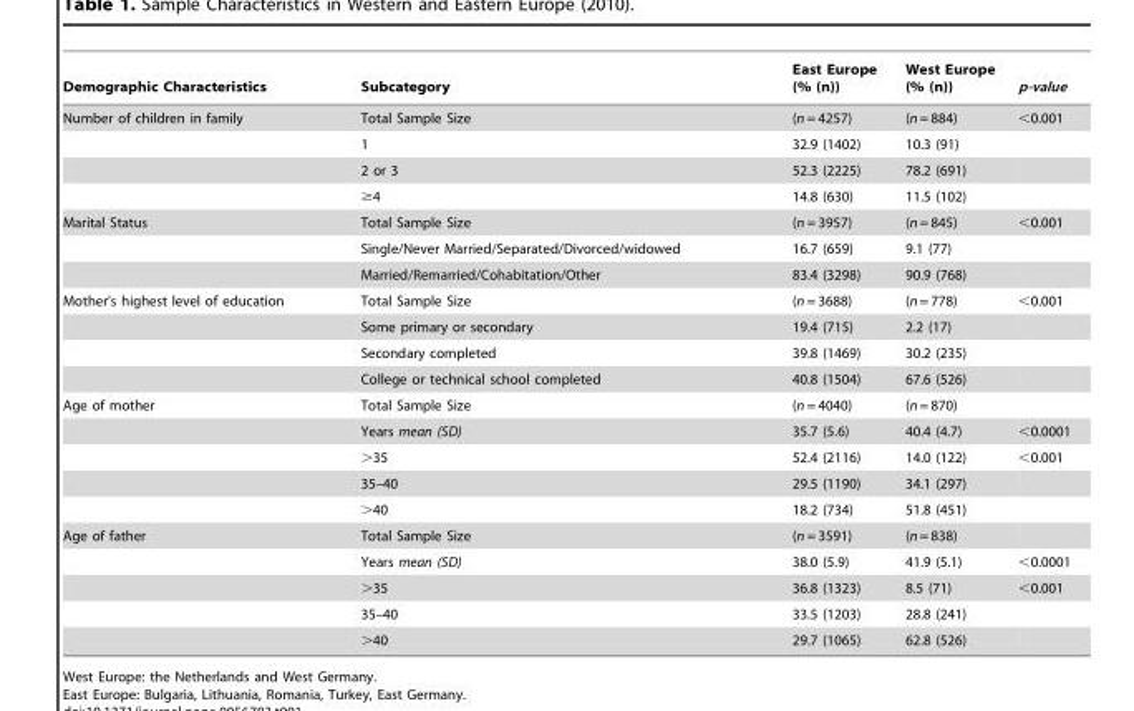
<table><thead><tr><td>Demographic Characteristics</td><td>Subcategory</td><td>East Europe (% (n))</td><td>West Europe (% (n))</td><td>p-value</td></tr></thead><tbody><tr><td rowspan="4">Number of children in family</td><td>Total Sample Size</td><td>(n = 4257)</td><td>(n = 884)</td><td>&lt;0.001</td></tr><tr><td>1</td><td>32.9 (1402)</td><td>10.3 (91)</td><td></td></tr><tr><td>2 or 3</td><td>52.3 (2225)</td><td>78.2 (691)</td><td></td></tr><tr><td>≥4</td><td>14.8 (630)</td><td>11.5 (102)</td><td></td></tr><tr><td rowspan="3">Marital Status</td><td>Total Sample Size</td><td>(n = 3957)</td><td>(n = 845)</td><td>&lt;0.001</td></tr><tr><td>Single/Never Married/Separated/Divorced/widowed</td><td>16.7 (659)</td><td>9.1 (77)</td><td></td></tr><tr><td>Married/Remarried/Cohabitation/Other</td><td>83.4 (3298)</td><td>90.9 (768)</td><td></td></tr><tr><td rowspan="4">Mother’s highest level of education</td><td>Total Sample Size</td><td>(n = 3688)</td><td>(n = 778)</td><td>&lt;0.001</td></tr><tr><td>Some primary or secondary</td><td>19.4 (715)</td><td>2.2 (17)</td><td></td></tr><tr><td>Secondary completed</td><td>39.8 (1469)</td><td>30.2 (235)</td><td></td></tr><tr><td>College or technical school completed</td><td>40.8 (1504)</td><td>67.6 (526)</td><td></td></tr><tr><td rowspan="5">Age of mother</td><td>Total Sample Size</td><td>(n = 4040)</td><td>(n = 870)</td><td></td></tr><tr><td>Years mean (SD)</td><td>35.7 (5.6)</td><td>40.4 (4.7)</td><td>&lt;0.0001</td></tr><tr><td>&gt;35</td><td>52.4 (2116)</td><td>14.0 (122)</td><td>&lt;0.001</td></tr><tr><td>35–40</td><td>29.5 (1190)</td><td>34.1 (297)</td><td></td></tr><tr><td>&gt;40</td><td>18.2 (734)</td><td>51.8 (451)</td><td></td></tr><tr><td rowspan="5">Age of father</td><td>Total Sample Size</td><td>(n = 3591)</td><td>(n = 838)</td><td></td></tr><tr><td>Years mean (SD)</td><td>38.0 (5.9)</td><td>41.9 (5.1)</td><td>&lt;0.0001</td></tr><tr><td>&gt;35</td><td>36.8 (1323)</td><td>8.5 (71)</td><td>&lt;0.001</td></tr><tr><td>35–40</td><td>33.5 (1203)</td><td>28.8 (241)</td><td></td></tr><tr><td>&gt;40</td><td>29.7 (1065)</td><td>62.8 (526)</td><td></td></tr></tbody></table>